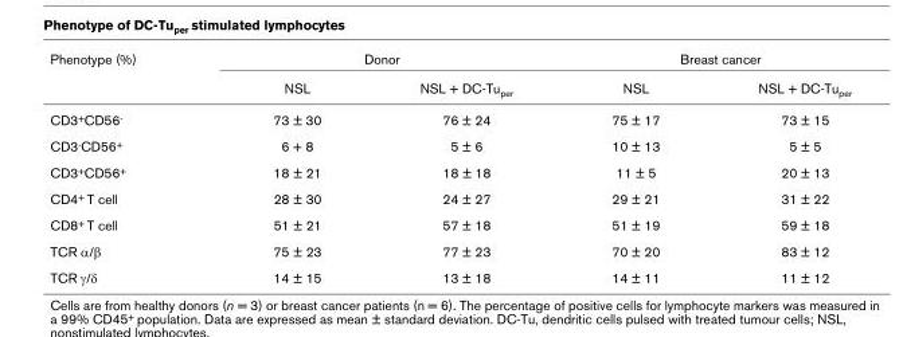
<table><thead><tr><td rowspan="2">Phenotype (%)</td><td colspan="2">Donor</td><td colspan="2">Breast cancer</td></tr><tr><td>NSL</td><td>NSL + DC-Tuper</td><td>NSL</td><td>NSL + DC-Tuper</td></tr></thead><tbody><tr><td>CD3+CD56-</td><td>73 ± 30</td><td>76 ± 24</td><td>75 ± 17</td><td>73 ± 15</td></tr><tr><td>CD3-CD56+</td><td>6 + 8</td><td>5 ± 6</td><td>10 ± 13</td><td>5 ± 5</td></tr><tr><td>CD3+CD56+</td><td>18 ± 21</td><td>18 ± 18</td><td>11 ± 5</td><td>20 ± 13</td></tr><tr><td>CD4+ T cell</td><td>28 ± 30</td><td>24 ± 27</td><td>29 ± 21</td><td>31 ± 22</td></tr><tr><td>CD8+ T cell</td><td>51 ± 21</td><td>57 ± 18</td><td>51 ± 19</td><td>59 ± 18</td></tr><tr><td>TCR α/β</td><td>75 ± 23</td><td>77 ± 23</td><td>70 ± 20</td><td>83 ± 12</td></tr><tr><td>TCR γ/δ</td><td>14 ± 15</td><td>13 ± 18</td><td>14 ± 11</td><td>11 ± 12</td></tr></tbody></table>